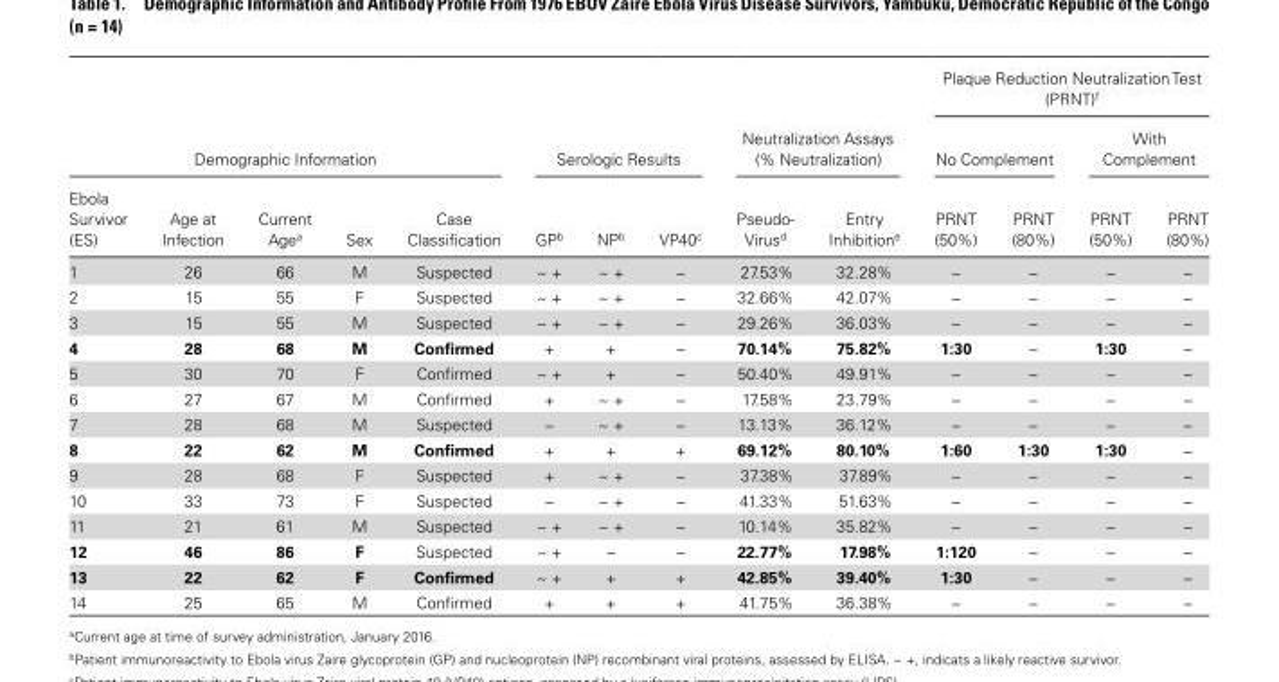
<table><thead><tr><td rowspan="2" colspan="5">Demographic Information</td><td rowspan="2" colspan="3">Serologic Results</td><td rowspan="2" colspan="2">Neutralization Assays (% Neutralization)</td><td colspan="4">Plaque Reduction Neutralization Test (PRNT)<sup>f</sup></td></tr><tr><td colspan="2">No Complement</td><td colspan="2">With Complement</td></tr><tr><td>Ebola Survivor (ES)</td><td>Age at Infection</td><td>Current Age<sup>a</sup></td><td>Sex</td><td>Case Classification</td><td>GP<sup>b</sup></td><td>NP<sup>b</sup></td><td>VP40<sup>c</sup></td><td>Pseudo- Virus<sup>d</sup></td><td>Entry Inhibition<sup>e</sup></td><td>PRNT (50%)</td><td>PRNT (80%)</td><td>PRNT (50%)</td><td>PRNT (80%)</td></tr></thead><tbody><tr><td>1</td><td>26</td><td>66</td><td>M</td><td>Suspected</td><td>~ +</td><td>~ +</td><td>−</td><td>27.53%</td><td>32.28%</td><td>−</td><td>−</td><td>−</td><td>−</td></tr><tr><td>2</td><td>15</td><td>55</td><td>F</td><td>Suspected</td><td>~ +</td><td>~ +</td><td>−</td><td>32.66%</td><td>42.07%</td><td>−</td><td>−</td><td>−</td><td>−</td></tr><tr><td>3</td><td>15</td><td>55</td><td>M</td><td>Suspected</td><td>~ +</td><td>~ +</td><td>−</td><td>29.26%</td><td>36.03%</td><td>−</td><td>−</td><td>−</td><td>−</td></tr><tr><td>4</td><td>28</td><td>68</td><td>M</td><td>Confirmed</td><td>+</td><td>+</td><td>−</td><td>70.14%</td><td>75.82%</td><td>1:30</td><td>−</td><td>1:30</td><td>−</td></tr><tr><td>5</td><td>30</td><td>70</td><td>F</td><td>Confirmed</td><td>~ +</td><td>+</td><td>−</td><td>50.40%</td><td>49.91%</td><td>−</td><td>−</td><td>−</td><td>−</td></tr><tr><td>6</td><td>27</td><td>67</td><td>M</td><td>Confirmed</td><td>+</td><td>~ +</td><td>−</td><td>17.58%</td><td>23.79%</td><td>−</td><td>−</td><td>−</td><td>−</td></tr><tr><td>7</td><td>28</td><td>68</td><td>M</td><td>Suspected</td><td>−</td><td>~ +</td><td>−</td><td>13.13%</td><td>36.12%</td><td>−</td><td>−</td><td>−</td><td>−</td></tr><tr><td>8</td><td>22</td><td>62</td><td>M</td><td>Confirmed</td><td>+</td><td>+</td><td>+</td><td>69.12%</td><td>80.10%</td><td>1:60</td><td>1:30</td><td>1:30</td><td>−</td></tr><tr><td>9</td><td>28</td><td>68</td><td>F</td><td>Suspected</td><td>+</td><td>~ +</td><td>−</td><td>37.38%</td><td>37.89%</td><td>−</td><td>−</td><td>−</td><td>−</td></tr><tr><td>10</td><td>33</td><td>73</td><td>F</td><td>Suspected</td><td>−</td><td>~ +</td><td>−</td><td>41.33%</td><td>51.63%</td><td>−</td><td>−</td><td>−</td><td>−</td></tr><tr><td>11</td><td>21</td><td>61</td><td>M</td><td>Suspected</td><td>~ +</td><td>~ +</td><td>−</td><td>10.14%</td><td>35.82%</td><td>−</td><td>−</td><td>−</td><td>−</td></tr><tr><td>12</td><td>46</td><td>86</td><td>F</td><td>Suspected</td><td>~ +</td><td>−</td><td>−</td><td>22.77%</td><td>17.98%</td><td>1:120</td><td>−</td><td>−</td><td>−</td></tr><tr><td>13</td><td>22</td><td>62</td><td>F</td><td>Confirmed</td><td>~ +</td><td>+</td><td>+</td><td>42.85%</td><td>39.40%</td><td>1:30</td><td>−</td><td>−</td><td>−</td></tr><tr><td>14</td><td>25</td><td>65</td><td>M</td><td>Confirmed</td><td>+</td><td>+</td><td>+</td><td>41.75%</td><td>36.38%</td><td>−</td><td>−</td><td>−</td><td>−</td></tr></tbody></table>